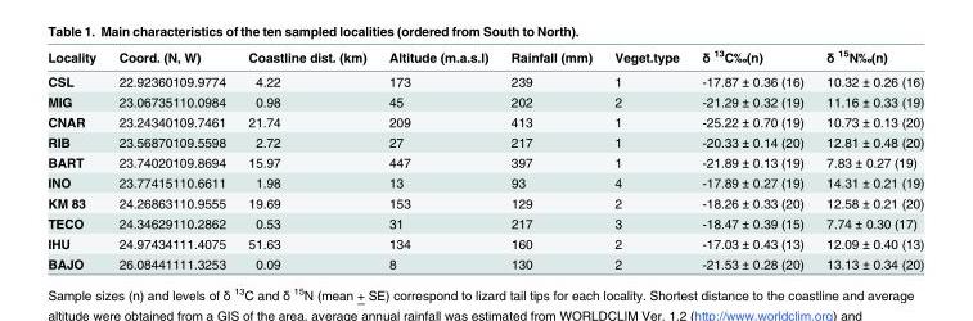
<table><thead><tr><td>Locality</td><td>Coord. (N, W)</td><td>Coastline dist. (km)</td><td>Altitude (m.a.s.l)</td><td>Rainfall (mm)</td><td>Veget.type</td><td>δ <sup>13</sup>C‰(n)</td><td>δ <sup>15</sup>N‰(n)</td></tr></thead><tbody><tr><td>CSL</td><td>22.92360109.9774</td><td>4.22</td><td>173</td><td>239</td><td>1</td><td>-17.87 ± 0.36 (16)</td><td>10.32 ± 0.26 (16)</td></tr><tr><td>MIG</td><td>23.06735110.0984</td><td>0.98</td><td>45</td><td>202</td><td>2</td><td>-21.29 ± 0.32 (19)</td><td>11.16 ± 0.33 (19)</td></tr><tr><td>CNAR</td><td>23.24340109.7461</td><td>21.74</td><td>209</td><td>413</td><td>1</td><td>-25.22 ± 0.70 (19)</td><td>10.73 ± 0.13 (20)</td></tr><tr><td>RIB</td><td>23.56870109.5598</td><td>2.72</td><td>27</td><td>217</td><td>1</td><td>-20.33 ± 0.14 (20)</td><td>12.81 ± 0.48 (20)</td></tr><tr><td>BART</td><td>23.74020109.8694</td><td>15.97</td><td>447</td><td>397</td><td>1</td><td>-21.89 ± 0.13 (19)</td><td>7.83 ± 0.27 (19)</td></tr><tr><td>INO</td><td>23.77415110.6611</td><td>1.98</td><td>13</td><td>93</td><td>4</td><td>-17.89 ± 0.27 (19)</td><td>14.31 ± 0.21 (19)</td></tr><tr><td>KM 83</td><td>24.26863110.9555</td><td>19.69</td><td>153</td><td>129</td><td>2</td><td>-18.26 ± 0.33 (20)</td><td>12.58 ± 0.21 (20)</td></tr><tr><td>TECO</td><td>24.34629110.2862</td><td>0.53</td><td>31</td><td>217</td><td>3</td><td>-18.47 ± 0.39 (15)</td><td>7.74 ± 0.30 (17)</td></tr><tr><td>IHU</td><td>24.97434111.4075</td><td>51.63</td><td>134</td><td>160</td><td>2</td><td>-17.03 ± 0.43 (13)</td><td>12.09 ± 0.40 (13)</td></tr><tr><td>BAJO</td><td>26.08441111.3253</td><td>0.09</td><td>8</td><td>130</td><td>2</td><td>-21.53 ± 0.28 (20)</td><td>13.13 ± 0.34 (20)</td></tr></tbody></table>